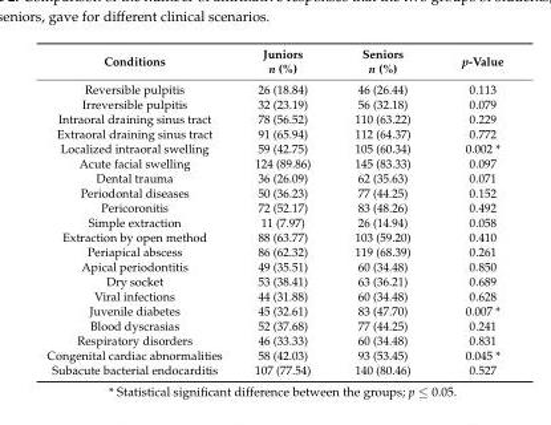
<table><thead><tr><td>Conditions</td><td>Juniors n (%)</td><td>Seniors n (%)</td><td>p-Value</td></tr></thead><tbody><tr><td>Reversible pulpitis</td><td>26 (18.84)</td><td>46 (26.44)</td><td>0.113</td></tr><tr><td>Irreversible pulpitis</td><td>32 (23.19)</td><td>56 (32.18)</td><td>0.079</td></tr><tr><td>Intraoral draining sinus tract</td><td>78 (56.52)</td><td>110 (63.22)</td><td>0.229</td></tr><tr><td>Extraoral draining sinus tract</td><td>91 (65.94)</td><td>112 (64.37)</td><td>0.772</td></tr><tr><td>Localized intraoral swelling</td><td>59 (42.75)</td><td>105 (60.34)</td><td>0.002 *</td></tr><tr><td>Acute facial swelling</td><td>124 (89.86)</td><td>145 (83.33)</td><td>0.097</td></tr><tr><td>Dental trauma</td><td>36 (26.09)</td><td>62 (35.63)</td><td>0.071</td></tr><tr><td>Periodontal diseases</td><td>50 (36.23)</td><td>77 (44.25)</td><td>0.152</td></tr><tr><td>Pericoronitis</td><td>72 (52.17)</td><td>83 (48.26)</td><td>0.492</td></tr><tr><td>Simple extraction</td><td>11 (7.97)</td><td>26 (14.94)</td><td>0.058</td></tr><tr><td>Extraction by open method</td><td>88 (63.77)</td><td>103 (59.20)</td><td>0.410</td></tr><tr><td>Periapical abscess</td><td>86 (62.32)</td><td>119 (68.39)</td><td>0.261</td></tr><tr><td>Apical periodontitis</td><td>49 (35.51)</td><td>60 (34.48)</td><td>0.850</td></tr><tr><td>Dry socket</td><td>53 (38.41)</td><td>63 (36.21)</td><td>0.689</td></tr><tr><td>Viral infections</td><td>44 (31.88)</td><td>60 (34.48)</td><td>0.628</td></tr><tr><td>Juvenile diabetes</td><td>45 (32.61)</td><td>83 (47.70)</td><td>0.007 *</td></tr><tr><td>Blood dyscrasias</td><td>52 (37.68)</td><td>77 (44.25)</td><td>0.241</td></tr><tr><td>Respiratory disorders</td><td>46 (33.33)</td><td>60 (34.48)</td><td>0.831</td></tr><tr><td>Congenital cardiac abnormalities</td><td>58 (42.03)</td><td>93 (53.45)</td><td>0.045 *</td></tr><tr><td>Subacute bacterial endocarditis</td><td>107 (77.54)</td><td>140 (80.46)</td><td>0.527</td></tr></tbody></table>